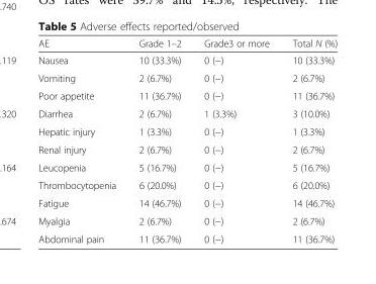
<table><thead><tr><td>AE</td><td>Grade 1–2</td><td>Grade3 or more</td><td>Total N (%)</td></tr></thead><tbody><tr><td>Nausea</td><td>10 (33.3%)</td><td>0 (−)</td><td>10 (33.3%)</td></tr><tr><td>Vomiting</td><td>2 (6.7%)</td><td>0 (−)</td><td>2 (6.7%)</td></tr><tr><td>Poor appetite</td><td>11 (36.7%)</td><td>0 (−)</td><td>11 (36.7%)</td></tr><tr><td>Diarrhea</td><td>2 (6.7%)</td><td>1 (3.3%)</td><td>3 (10.0%)</td></tr><tr><td>Hepatic injury</td><td>1 (3.3%)</td><td>0 (−)</td><td>1 (3.3%)</td></tr><tr><td>Renal injury</td><td>2 (6.7%)</td><td>0 (−)</td><td>2 (6.7%)</td></tr><tr><td>Leucopenia</td><td>5 (16.7%)</td><td>0 (−)</td><td>5 (16.7%)</td></tr><tr><td>Thrombocytopenia</td><td>6 (20.0%)</td><td>0 (−)</td><td>6 (20.0%)</td></tr><tr><td>Fatigue</td><td>14 (46.7%)</td><td>0 (−)</td><td>14 (46.7%)</td></tr><tr><td>Myalgia</td><td>2 (6.7%)</td><td>0 (−)</td><td>2 (6.7%)</td></tr><tr><td>Abdominal pain</td><td>11 (36.7%)</td><td>0 (−)</td><td>11 (36.7%)</td></tr></tbody></table>